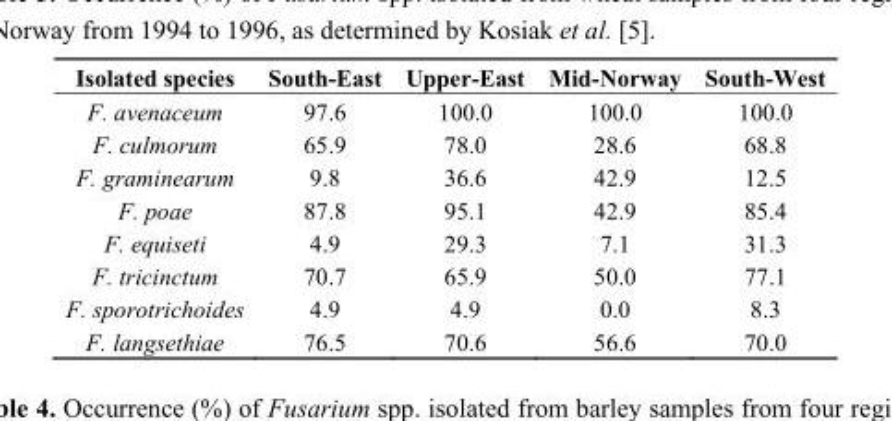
<table><thead><tr><td>Isolated species</td><td>South-East</td><td>Upper-East</td><td>Mid-Norway</td><td>South-West</td></tr></thead><tbody><tr><td>F. avenaceum</td><td>97.6</td><td>100.0</td><td>100.0</td><td>100.0</td></tr><tr><td>F. culmorum</td><td>65.9</td><td>78.0</td><td>28.6</td><td>68.8</td></tr><tr><td>F. graminearum</td><td>9.8</td><td>36.6</td><td>42.9</td><td>12.5</td></tr><tr><td>F. poae</td><td>87.8</td><td>95.1</td><td>42.9</td><td>85.4</td></tr><tr><td>F. equiseti</td><td>4.9</td><td>29.3</td><td>7.1</td><td>31.3</td></tr><tr><td>F. tricinctum</td><td>70.7</td><td>65.9</td><td>50.0</td><td>77.1</td></tr><tr><td>F. sporotrichoides</td><td>4.9</td><td>4.9</td><td>0.0</td><td>8.3</td></tr><tr><td>F. langsethiae</td><td>76.5</td><td>70.6</td><td>56.6</td><td>70.0</td></tr></tbody></table>